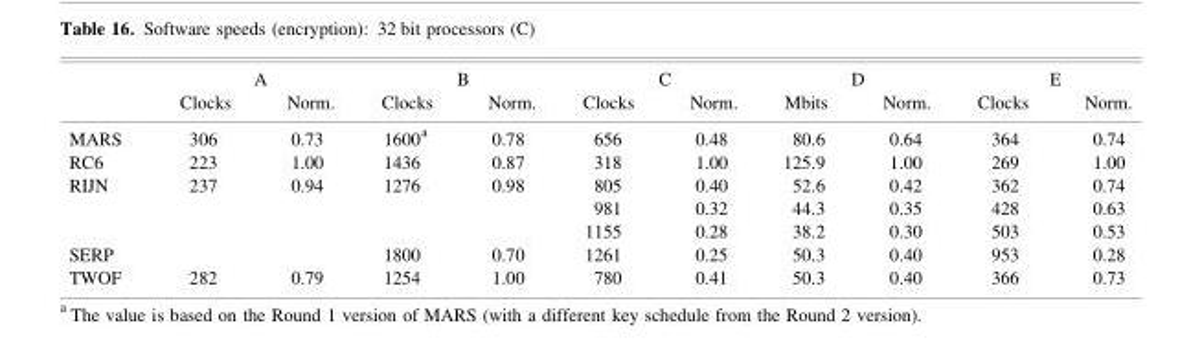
<table><thead><tr><td rowspan="2"></td><td colspan="2">A</td><td colspan="2">B</td><td colspan="2">C</td><td colspan="2">D</td><td colspan="2">E</td></tr><tr><td>Clocks</td><td>Norm.</td><td>Clocks</td><td>Norm.</td><td>Clocks</td><td>Norm.</td><td>Mbits</td><td>Norm.</td><td>Clocks</td><td>Norm.</td></tr></thead><tbody><tr><td>MARS</td><td>306</td><td>0.73</td><td>1600<sup>a</sup></td><td>0.78</td><td>656</td><td>0.48</td><td>80.6</td><td>0.64</td><td>364</td><td>0.74</td></tr><tr><td>RC6</td><td>223</td><td>1.00</td><td>1436</td><td>0.87</td><td>318</td><td>1.00</td><td>125.9</td><td>1.00</td><td>269</td><td>1.00</td></tr><tr><td rowspan="3">RIJN</td><td>237</td><td>0.94</td><td>1276</td><td>0.98</td><td>805</td><td>0.40</td><td>52.6</td><td>0.42</td><td>362</td><td>0.74</td></tr><tr><td></td><td></td><td></td><td></td><td>981</td><td>0.32</td><td>44.3</td><td>0.35</td><td>428</td><td>0.63</td></tr><tr><td></td><td></td><td></td><td></td><td>1155</td><td>0.28</td><td>38.2</td><td>0.30</td><td>503</td><td>0.53</td></tr><tr><td>SERP</td><td></td><td></td><td>1800</td><td>0.70</td><td>1261</td><td>0.25</td><td>50.3</td><td>0.40</td><td>953</td><td>0.28</td></tr><tr><td>TWOF</td><td>282</td><td>0.79</td><td>1254</td><td>1.00</td><td>780</td><td>0.41</td><td>50.3</td><td>0.40</td><td>366</td><td>0.73</td></tr></tbody></table>